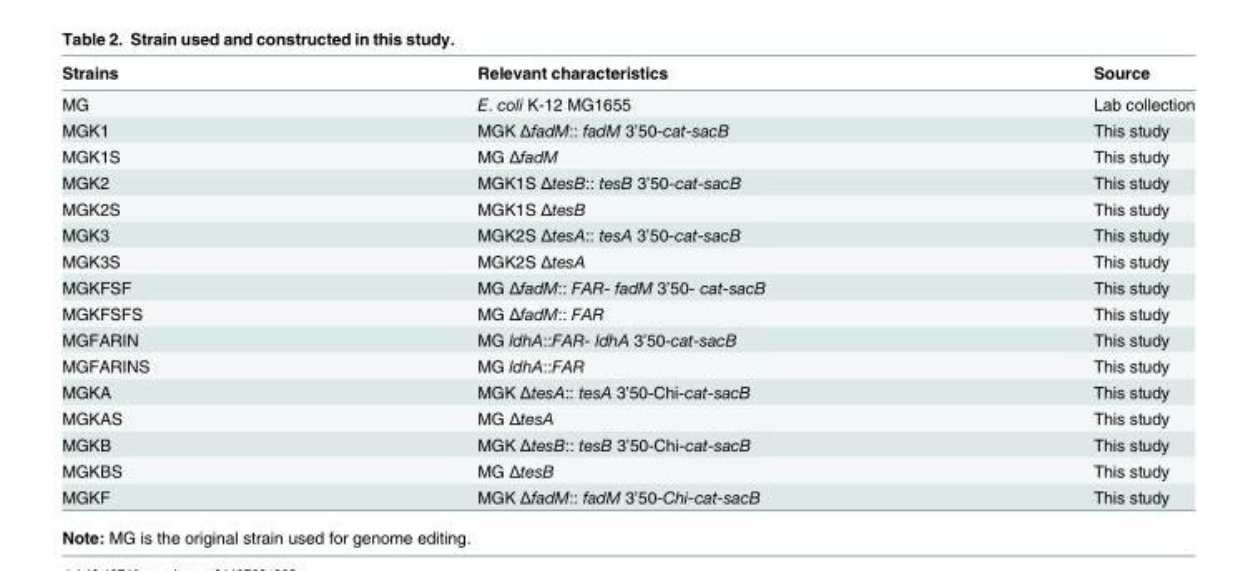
<table><thead><tr><td>Strains</td><td>Relevant characteristics</td><td>Source</td></tr></thead><tbody><tr><td>MG</td><td>E. coli K-12 MG1655</td><td>Lab collection</td></tr><tr><td>MGK1</td><td>MGK ΔfadM:: fadM 3’50-cat-sacB</td><td>This study</td></tr><tr><td>MGK1S</td><td>MG ΔfadM</td><td>This study</td></tr><tr><td>MGK2</td><td>MGK1S ΔtesB:: tesB 3’50-cat-sacB</td><td>This study</td></tr><tr><td>MGK2S</td><td>MGK1S ΔtesB</td><td>This study</td></tr><tr><td>MGK3</td><td>MGK2S ΔtesA:: tesA 3’50-cat-sacB</td><td>This study</td></tr><tr><td>MGK3S</td><td>MGK2S ΔtesA</td><td>This study</td></tr><tr><td>MGKFSF</td><td>MG ΔfadM:: FAR- fadM 3’50- cat-sacB</td><td>This study</td></tr><tr><td>MGKFSFS</td><td>MG ΔfadM:: FAR</td><td>This study</td></tr><tr><td>MGFARIN</td><td>MG ldhA::FAR- ldhA 3’50-cat-sacB</td><td>This study</td></tr><tr><td>MGFARINS</td><td>MG ldhA::FAR</td><td>This study</td></tr><tr><td>MGKA</td><td>MGK ΔtesA:: tesA 3’50-Chi-cat-sacB</td><td>This study</td></tr><tr><td>MGKAS</td><td>MG ΔtesA</td><td>This study</td></tr><tr><td>MGKB</td><td>MGK ΔtesB:: tesB 3’50-Chi-cat-sacB</td><td>This study</td></tr><tr><td>MGKBS</td><td>MG ΔtesB</td><td>This study</td></tr><tr><td>MGKF</td><td>MGK ΔfadM:: fadM 3’50-Chi-cat-sacB</td><td>This study</td></tr></tbody></table>